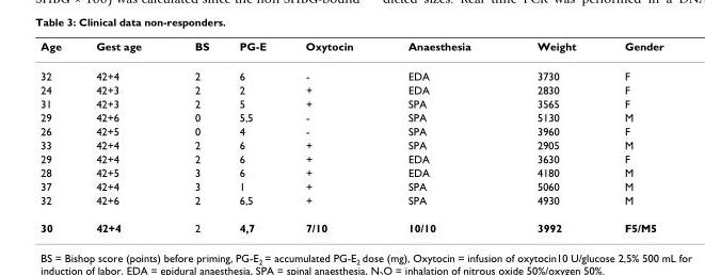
<table><thead><tr><td>Age</td><td>Gest age</td><td>BS</td><td>PG-E</td><td>Oxytocin</td><td>Anaesthesia</td><td>Weight</td><td>Gender</td></tr></thead><tbody><tr><td>32</td><td>42+4</td><td>2</td><td>6</td><td>-</td><td>EDA</td><td>3730</td><td>F</td></tr><tr><td>24</td><td>42+3</td><td>2</td><td>2</td><td>+</td><td>EDA</td><td>2830</td><td>F</td></tr><tr><td>31</td><td>42+3</td><td>2</td><td>5</td><td>+</td><td>SPA</td><td>3565</td><td>F</td></tr><tr><td>29</td><td>42+6</td><td>0</td><td>5,5</td><td>-</td><td>SPA</td><td>5130</td><td>M</td></tr><tr><td>26</td><td>42+5</td><td>0</td><td>4</td><td>-</td><td>SPA</td><td>3960</td><td>F</td></tr><tr><td>33</td><td>42+4</td><td>2</td><td>6</td><td>+</td><td>SPA</td><td>2905</td><td>M</td></tr><tr><td>29</td><td>42+4</td><td>2</td><td>6</td><td>+</td><td>EDA</td><td>3630</td><td>F</td></tr><tr><td>28</td><td>42+5</td><td>3</td><td>6</td><td>+</td><td>EDA</td><td>4180</td><td>M</td></tr><tr><td>37</td><td>42+4</td><td>3</td><td>1</td><td>+</td><td>SPA</td><td>5060</td><td>M</td></tr><tr><td>32</td><td>42+6</td><td>2</td><td>6,5</td><td>+</td><td>SPA</td><td>4930</td><td>M</td></tr><tr><td>30</td><td>42+4</td><td>2</td><td>4,7</td><td>7/10</td><td>10/10</td><td>3992</td><td>F5/M5</td></tr></tbody></table>